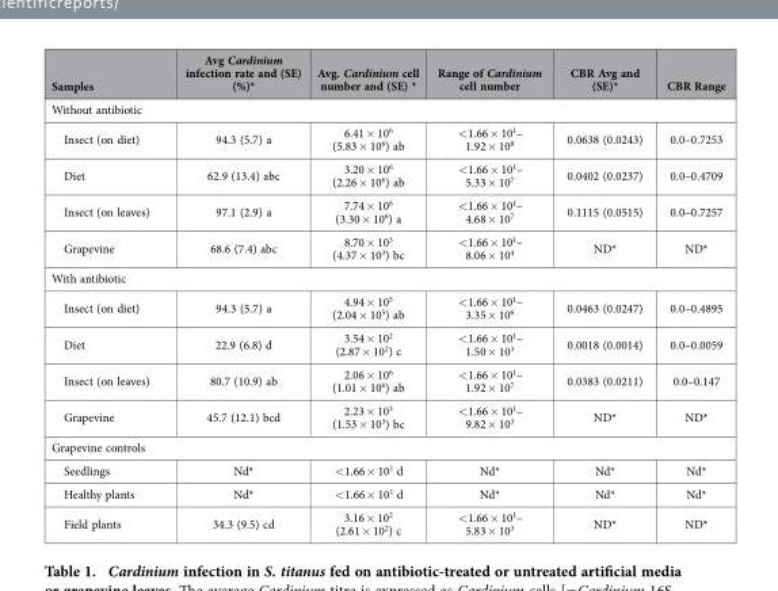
<table><thead><tr><td>Samples</td><td>Avg Cardinium infection rate and (SE) (%)*</td><td>Avg. Cardinium cell number and (SE) *</td><td>Range of Cardinium cell number</td><td>CBR Avg and (SE)*</td><td>CBR Range</td></tr></thead><tbody><tr><td colspan="6">Without antibiotic</td></tr><tr><td>Insect (on diet)</td><td>94.3 (5.7) a</td><td>6.41 × 10<sup>6</sup> (5.83 × 10<sup>6</sup>) ab</td><td>&lt;1.66 × 10<sup>1</sup>– 1.92 × 10<sup>8</sup></td><td>0.0638 (0.0243)</td><td>0.0–0.7253</td></tr><tr><td>Diet</td><td>62.9 (13.4) abc</td><td>3.20 × 10<sup>6</sup> (2.26 × 10<sup>6</sup>) ab</td><td>&lt;1.66 × 10<sup>1</sup>– 5.33 × 10<sup>7</sup></td><td>0.0402 (0.0237)</td><td>0.0–0.4709</td></tr><tr><td>Insect (on leaves)</td><td>97.1 (2.9) a</td><td>7.74 × 10<sup>6</sup> (3.30 × 10<sup>6</sup>) a</td><td>&lt;1.66 × 10<sup>1</sup>– 4.68 × 10<sup>7</sup></td><td>0.1115 (0.0515)</td><td>0.0–0.7257</td></tr><tr><td>Grapevine</td><td>68.6 (7.4) abc</td><td>8.70 × 10<sup>3</sup> (4.37 × 10<sup>3</sup>) bc</td><td>&lt;1.66 × 10<sup>1</sup>– 8.06 × 10<sup>4</sup></td><td>ND*</td><td>ND*</td></tr><tr><td colspan="6">With antibiotic</td></tr><tr><td>Insect (on diet)</td><td>94.3 (5.7) a</td><td>4.94 × 10<sup>5</sup> (2.04 × 10<sup>5</sup>) ab</td><td>&lt;1.66 × 10<sup>1</sup>– 3.35 × 10<sup>6</sup></td><td>0.0463 (0.0247)</td><td>0.0–0.4895</td></tr><tr><td>Diet</td><td>22.9 (6.8) d</td><td>3.54 × 10<sup>2</sup> (2.87 × 10<sup>2</sup>) c</td><td>&lt;1.66 × 10<sup>1</sup>– 1.50 × 10<sup>3</sup></td><td>0.0018 (0.0014)</td><td>0.0–0.0059</td></tr><tr><td>Insect (on leaves)</td><td>80.7 (10.9) ab</td><td>2.06 × 10<sup>6</sup> (1.01 × 10<sup>6</sup>) ab</td><td>&lt;1.66 × 10<sup>1</sup>– 1.92 × 10<sup>7</sup></td><td>0.0383 (0.0211)</td><td>0.0–0.147</td></tr><tr><td>Grapevine</td><td>45.7 (12.1) bcd</td><td>2.23 × 10<sup>3</sup> (1.53 × 10<sup>3</sup>) bc</td><td>&lt;1.66 × 10<sup>1</sup>– 9.82 × 10<sup>3</sup></td><td>ND*</td><td>ND*</td></tr><tr><td colspan="6">Grapevine controls</td></tr><tr><td>Seedlings</td><td>Nd*</td><td>&lt;1.66 × 10<sup>1</sup> d</td><td>Nd*</td><td>Nd*</td><td>Nd*</td></tr><tr><td>Healthy plants</td><td>Nd*</td><td>&lt;1.66 × 10<sup>1</sup> d</td><td>Nd*</td><td>Nd*</td><td>Nd*</td></tr><tr><td>Field plants</td><td>34.3 (9.5) cd</td><td>3.16 × 10<sup>2</sup> (2.61 × 10<sup>2</sup>) c</td><td>&lt;1.66 × 10<sup>1</sup>– 5.83 × 10<sup>3</sup></td><td>ND*</td><td>ND*</td></tr></tbody></table>